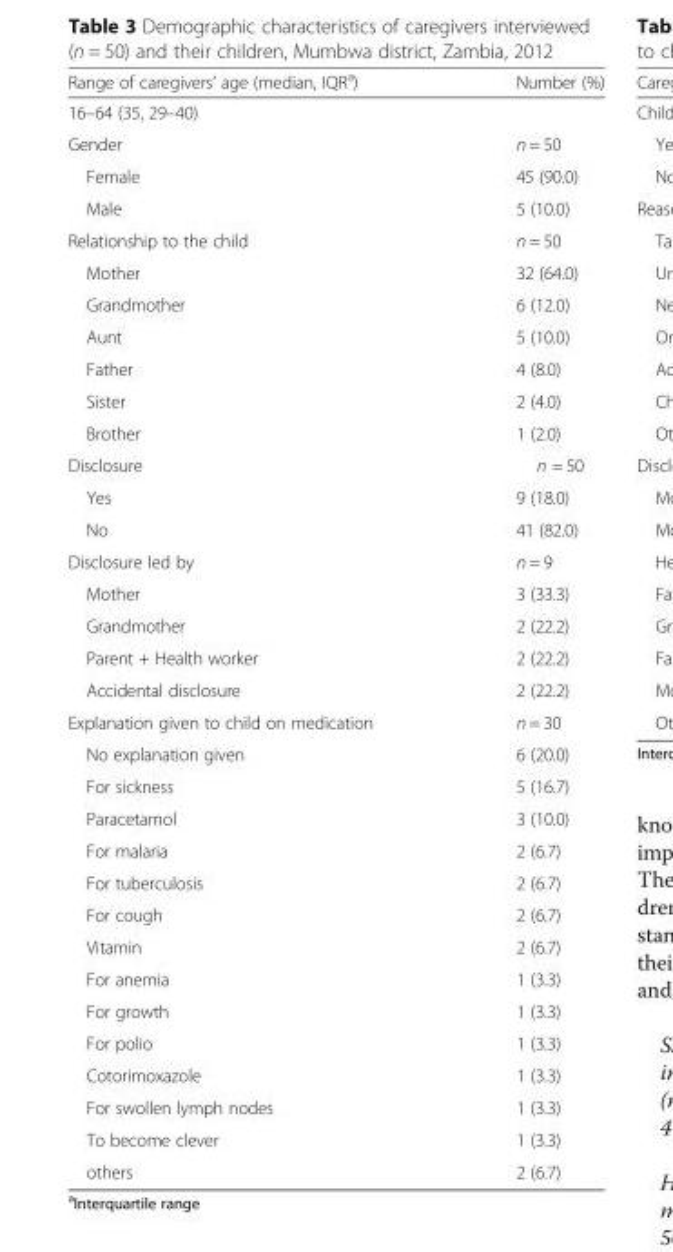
<table><thead><tr><td>Range of caregivers’ age (median, IQR<sup>a</sup>)</td><td>Number (%)</td></tr></thead><tbody><tr><td colspan="2">16–64 (35, 29–40)</td></tr><tr><td>Gender</td><td>n = 50</td></tr><tr><td>Female</td><td>45 (90.0)</td></tr><tr><td>Male</td><td>5 (10.0)</td></tr><tr><td>Relationship to the child</td><td>n = 50</td></tr><tr><td>Mother</td><td>32 (64.0)</td></tr><tr><td>Grandmother</td><td>6 (12.0)</td></tr><tr><td>Aunt</td><td>5 (10.0)</td></tr><tr><td>Father</td><td>4 (8.0)</td></tr><tr><td>Sister</td><td>2 (4.0)</td></tr><tr><td>Brother</td><td>1 (2.0)</td></tr><tr><td>Disclosure</td><td>n = 50</td></tr><tr><td>Yes</td><td>9 (18.0)</td></tr><tr><td>No</td><td>41 (82.0)</td></tr><tr><td>Disclosure led by</td><td>n = 9</td></tr><tr><td>Mother</td><td>3 (33.3)</td></tr><tr><td>Grandmother</td><td>2 (22.2)</td></tr><tr><td>Parent + Health worker</td><td>2 (22.2)</td></tr><tr><td>Accidental disclosure</td><td>2 (22.2)</td></tr><tr><td>Explanation given to child on medication</td><td>n = 30</td></tr><tr><td>No explanation given</td><td>6 (20.0)</td></tr><tr><td>For sickness</td><td>5 (16.7)</td></tr><tr><td>Paracetamol</td><td>3 (10.0)</td></tr><tr><td>For malaria</td><td>2 (6.7)</td></tr><tr><td>For tuberculosis</td><td>2 (6.7)</td></tr><tr><td>For cough</td><td>2 (6.7)</td></tr><tr><td>Vitamin</td><td>2 (6.7)</td></tr><tr><td>For anemia</td><td>1 (3.3)</td></tr><tr><td>For growth</td><td>1 (3.3)</td></tr><tr><td>For polio</td><td>1 (3.3)</td></tr><tr><td>Cotorimoxazole</td><td>1 (3.3)</td></tr><tr><td>For swollen lymph nodes</td><td>1 (3.3)</td></tr><tr><td>To become clever</td><td>1 (3.3)</td></tr><tr><td>others</td><td>2 (6.7)</td></tr></tbody></table>